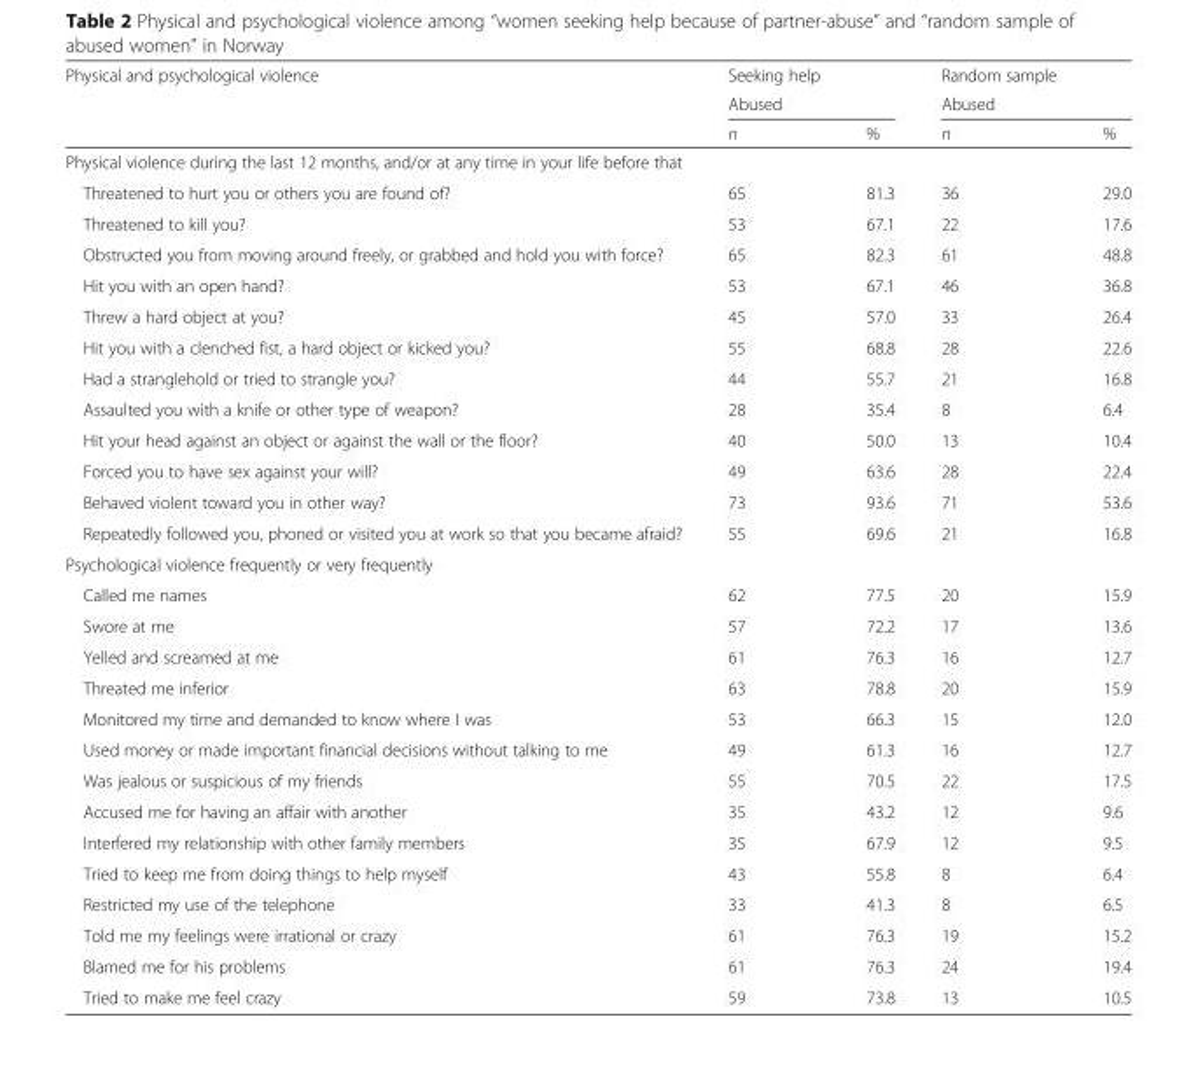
<table><thead><tr><td rowspan="3">Physical and psychological violence</td><td>Seeking help</td><td></td><td>Random sample</td><td></td></tr><tr><td colspan="2">Abused</td><td colspan="2">Abused</td></tr><tr><td>n</td><td>%</td><td>n</td><td>%</td></tr></thead><tbody><tr><td colspan="5">Physical violence during the last 12 months, and/or at any time in your life before that</td></tr><tr><td>Threatened to hurt you or others you are found of?</td><td>65</td><td>81.3</td><td>36</td><td>29.0</td></tr><tr><td>Threatened to kill you?</td><td>53</td><td>67.1</td><td>22</td><td>17.6</td></tr><tr><td>Obstructed you from moving around freely, or grabbed and hold you with force?</td><td>65</td><td>82.3</td><td>61</td><td>48.8</td></tr><tr><td>Hit you with an open hand?</td><td>53</td><td>67.1</td><td>46</td><td>36.8</td></tr><tr><td>Threw a hard object at you?</td><td>45</td><td>57.0</td><td>33</td><td>26.4</td></tr><tr><td>Hit you with a clenched fist, a hard object or kicked you?</td><td>55</td><td>68.8</td><td>28</td><td>22.6</td></tr><tr><td>Had a stranglehold or tried to strangle you?</td><td>44</td><td>55.7</td><td>21</td><td>16.8</td></tr><tr><td>Assaulted you with a knife or other type of weapon?</td><td>28</td><td>35.4</td><td>8</td><td>6.4</td></tr><tr><td>Hit your head against an object or against the wall or the floor?</td><td>40</td><td>50.0</td><td>13</td><td>10.4</td></tr><tr><td>Forced you to have sex against your will?</td><td>49</td><td>63.6</td><td>28</td><td>22.4</td></tr><tr><td>Behaved violent toward you in other way?</td><td>73</td><td>93.6</td><td>71</td><td>53.6</td></tr><tr><td>Repeatedly followed you, phoned or visited you at work so that you became afraid?</td><td>55</td><td>69.6</td><td>21</td><td>16.8</td></tr><tr><td colspan="5">Psychological violence frequently or very frequently</td></tr><tr><td>Called me names</td><td>62</td><td>77.5</td><td>20</td><td>15.9</td></tr><tr><td>Swore at me</td><td>57</td><td>72.2</td><td>17</td><td>13.6</td></tr><tr><td>Yelled and screamed at me</td><td>61</td><td>76.3</td><td>16</td><td>12.7</td></tr><tr><td>Threated me inferior</td><td>63</td><td>78.8</td><td>20</td><td>15.9</td></tr><tr><td>Monitored my time and demanded to know where I was</td><td>53</td><td>66.3</td><td>15</td><td>12.0</td></tr><tr><td>Used money or made important financial decisions without talking to me</td><td>49</td><td>61.3</td><td>16</td><td>12.7</td></tr><tr><td>Was jealous or suspicious of my friends</td><td>55</td><td>70.5</td><td>22</td><td>17.5</td></tr><tr><td>Accused me for having an affair with another</td><td>35</td><td>43.2</td><td>12</td><td>9.6</td></tr><tr><td>Interfered my relationship with other family members</td><td>35</td><td>67.9</td><td>12</td><td>9.5</td></tr><tr><td>Tried to keep me from doing things to help myself</td><td>43</td><td>55.8</td><td>8</td><td>6.4</td></tr><tr><td>Restricted my use of the telephone</td><td>33</td><td>41.3</td><td>8</td><td>6.5</td></tr><tr><td>Told me my feelings were irrational or crazy</td><td>61</td><td>76.3</td><td>19</td><td>15.2</td></tr><tr><td>Blamed me for his problems</td><td>61</td><td>76.3</td><td>24</td><td>19.4</td></tr><tr><td>Tried to make me feel crazy</td><td>59</td><td>73.8</td><td>13</td><td>10.5</td></tr></tbody></table>